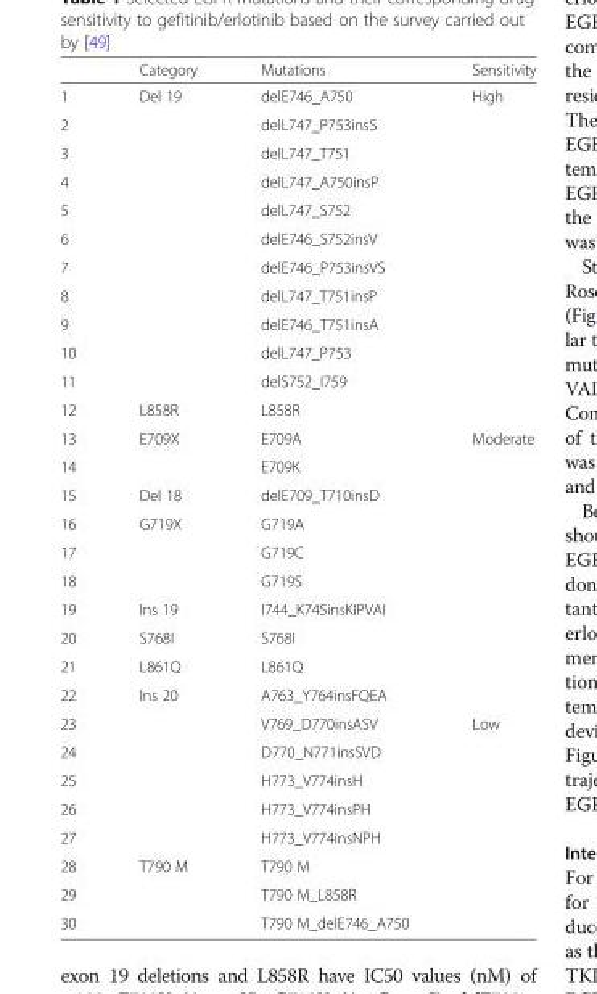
<table><thead><tr><td></td><td>Category</td><td>Mutations</td><td>Sensitivity</td></tr></thead><tbody><tr><td>1</td><td rowspan="11">Del 19</td><td>delE746_A750</td><td rowspan="12">High</td></tr><tr><td>2</td><td>delL747_P753insS</td></tr><tr><td>3</td><td>delL747_T751</td></tr><tr><td>4</td><td>delL747_A750insP</td></tr><tr><td>5</td><td>delL747_S752</td></tr><tr><td>6</td><td>delE746_S752insV</td></tr><tr><td>7</td><td>delE746_P753insVS</td></tr><tr><td>8</td><td>delL747_T751insP</td></tr><tr><td>9</td><td>delE746_T751insA</td></tr><tr><td>10</td><td>delL747_P753</td></tr><tr><td>11</td><td>delS752_I759</td></tr><tr><td>12</td><td>L858R</td><td>L858R</td></tr><tr><td>13</td><td rowspan="2">E709X</td><td>E709A</td><td rowspan="10">Moderate</td></tr><tr><td>14</td><td>E709K</td></tr><tr><td>15</td><td>Del 18</td><td>delE709_T710insD</td></tr><tr><td>16</td><td rowspan="3">G719X</td><td>G719A</td></tr><tr><td>17</td><td>G719C</td></tr><tr><td>18</td><td>G719S</td></tr><tr><td>19</td><td>Ins 19</td><td>I744_K745insKIPVAI</td></tr><tr><td>20</td><td>S768I</td><td>S768I</td></tr><tr><td>21</td><td>L861Q</td><td>L861Q</td></tr><tr><td>22</td><td rowspan="6">Ins 20</td><td>A763_Y764insFQEA</td></tr><tr><td>23</td><td>V769_D770insASV</td><td rowspan="8">Low</td></tr><tr><td>24</td><td>D770_N771insSVD</td></tr><tr><td>25</td><td>H773_V774insH</td></tr><tr><td>26</td><td>H773_V774insPH</td></tr><tr><td>27</td><td>H773_V774insNPH</td></tr><tr><td>28</td><td rowspan="3">T790 M</td><td>T790 M</td></tr><tr><td>29</td><td>T790 M_L858R</td></tr><tr><td>30</td><td>T790 M_delE746_A750</td></tr></tbody></table>